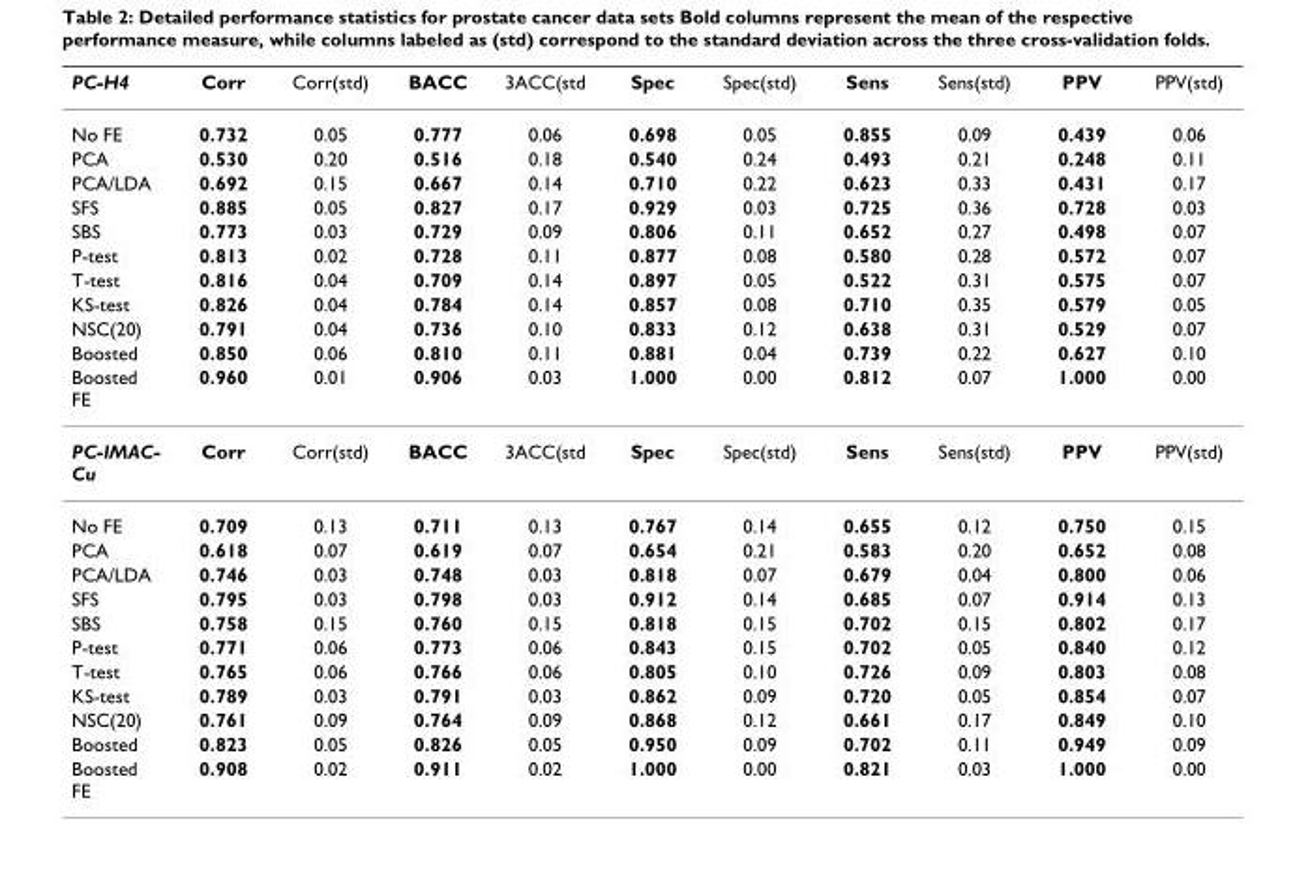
<table><thead><tr><td>PC-H4</td><td>Corr</td><td>Corr(std)</td><td>BACC</td><td>3ACC(std</td><td>Spec</td><td>Spec(std)</td><td>Sens</td><td>Sens(std)</td><td>PPV</td><td>PPV(std)</td></tr></thead><tbody><tr><td>No FE</td><td>0.732</td><td>0.05</td><td>0.777</td><td>0.06</td><td>0.698</td><td>0.05</td><td>0.855</td><td>0.09</td><td>0.439</td><td>0.06</td></tr><tr><td>PCA</td><td>0.530</td><td>0.20</td><td>0.516</td><td>0.18</td><td>0.540</td><td>0.24</td><td>0.493</td><td>0.21</td><td>0.248</td><td>0.11</td></tr><tr><td>PCA/LDA</td><td>0.692</td><td>0.15</td><td>0.667</td><td>0.14</td><td>0.710</td><td>0.22</td><td>0.623</td><td>0.33</td><td>0.431</td><td>0.17</td></tr><tr><td>SFS</td><td>0.885</td><td>0.05</td><td>0.827</td><td>0.17</td><td>0.929</td><td>0.03</td><td>0.725</td><td>0.36</td><td>0.728</td><td>0.03</td></tr><tr><td>SBS</td><td>0.773</td><td>0.03</td><td>0.729</td><td>0.09</td><td>0.806</td><td>0.11</td><td>0.652</td><td>0.27</td><td>0.498</td><td>0.07</td></tr><tr><td>P-test</td><td>0.813</td><td>0.02</td><td>0.728</td><td>0.11</td><td>0.877</td><td>0.08</td><td>0.580</td><td>0.28</td><td>0.572</td><td>0.07</td></tr><tr><td>T-test</td><td>0.816</td><td>0.04</td><td>0.709</td><td>0.14</td><td>0.897</td><td>0.05</td><td>0.522</td><td>0.31</td><td>0.575</td><td>0.07</td></tr><tr><td>KS-test</td><td>0.826</td><td>0.04</td><td>0.784</td><td>0.14</td><td>0.857</td><td>0.08</td><td>0.710</td><td>0.35</td><td>0.579</td><td>0.05</td></tr><tr><td>NSC(20)</td><td>0.791</td><td>0.04</td><td>0.736</td><td>0.10</td><td>0.833</td><td>0.12</td><td>0.638</td><td>0.31</td><td>0.529</td><td>0.07</td></tr><tr><td>Boosted</td><td>0.850</td><td>0.06</td><td>0.810</td><td>0.11</td><td>0.881</td><td>0.04</td><td>0.739</td><td>0.22</td><td>0.627</td><td>0.10</td></tr><tr><td>Boosted FE</td><td>0.960</td><td>0.01</td><td>0.906</td><td>0.03</td><td>1.000</td><td>0.00</td><td>0.812</td><td>0.07</td><td>1.000</td><td>0.00</td></tr><tr><td>PC-IMAC- Cu</td><td>Corr</td><td>Corr(std)</td><td>BACC</td><td>3ACC(std</td><td>Spec</td><td>Spec(std)</td><td>Sens</td><td>Sens(std)</td><td>PPV</td><td>PPV(std)</td></tr><tr><td>No FE</td><td>0.709</td><td>0.13</td><td>0.711</td><td>0.13</td><td>0.767</td><td>0.14</td><td>0.655</td><td>0.12</td><td>0.750</td><td>0.15</td></tr><tr><td>PCA</td><td>0.618</td><td>0.07</td><td>0.619</td><td>0.07</td><td>0.654</td><td>0.21</td><td>0.583</td><td>0.20</td><td>0.652</td><td>0.08</td></tr><tr><td>PCA/LDA</td><td>0.746</td><td>0.03</td><td>0.748</td><td>0.03</td><td>0.818</td><td>0.07</td><td>0.679</td><td>0.04</td><td>0.800</td><td>0.06</td></tr><tr><td>SFS</td><td>0.795</td><td>0.03</td><td>0.798</td><td>0.03</td><td>0.912</td><td>0.14</td><td>0.685</td><td>0.07</td><td>0.914</td><td>0.13</td></tr><tr><td>SBS</td><td>0.758</td><td>0.15</td><td>0.760</td><td>0.15</td><td>0.818</td><td>0.15</td><td>0.702</td><td>0.15</td><td>0.802</td><td>0.17</td></tr><tr><td>P-test</td><td>0.771</td><td>0.06</td><td>0.773</td><td>0.06</td><td>0.843</td><td>0.15</td><td>0.702</td><td>0.05</td><td>0.840</td><td>0.12</td></tr><tr><td>T-test</td><td>0.765</td><td>0.06</td><td>0.766</td><td>0.06</td><td>0.805</td><td>0.10</td><td>0.726</td><td>0.09</td><td>0.803</td><td>0.08</td></tr><tr><td>KS-test</td><td>0.789</td><td>0.03</td><td>0.791</td><td>0.03</td><td>0.862</td><td>0.09</td><td>0.720</td><td>0.05</td><td>0.854</td><td>0.07</td></tr><tr><td>NSC(20)</td><td>0.761</td><td>0.09</td><td>0.764</td><td>0.09</td><td>0.868</td><td>0.12</td><td>0.661</td><td>0.17</td><td>0.849</td><td>0.10</td></tr><tr><td>Boosted</td><td>0.823</td><td>0.05</td><td>0.826</td><td>0.05</td><td>0.950</td><td>0.09</td><td>0.702</td><td>0.11</td><td>0.949</td><td>0.09</td></tr><tr><td>Boosted FE</td><td>0.908</td><td>0.02</td><td>0.911</td><td>0.02</td><td>1.000</td><td>0.00</td><td>0.821</td><td>0.03</td><td>1.000</td><td>0.00</td></tr></tbody></table>